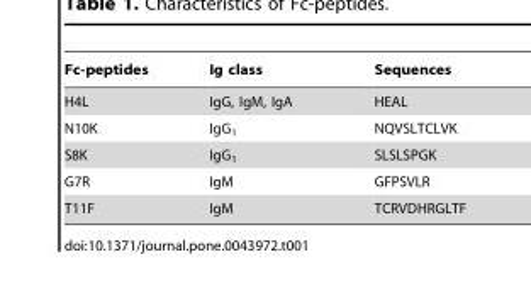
<table><thead><tr><td>Fc-peptides</td><td>Ig class</td><td>Sequences</td></tr></thead><tbody><tr><td>H4L</td><td>IgG, IgM, IgA</td><td>HEAL</td></tr><tr><td>N10K</td><td>IgG<sub>1</sub></td><td>NQVSLTCLVK</td></tr><tr><td>S8K</td><td>IgG<sub>1</sub></td><td>SLSLSPGK</td></tr><tr><td>G7R</td><td>IgM</td><td>GFPSVLR</td></tr><tr><td>T11F</td><td>IgM</td><td>TCRVDHRGLTF</td></tr></tbody></table>